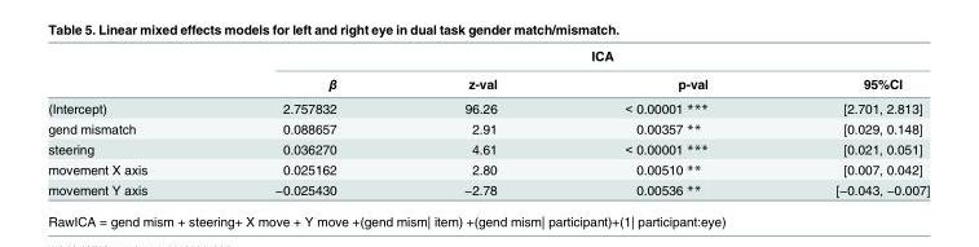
<table><thead><tr><td rowspan="2"></td><td colspan="4">ICA</td></tr><tr><td>β</td><td>z-val</td><td>p-val</td><td>95%CI</td></tr></thead><tbody><tr><td>(Intercept)</td><td>2.757832</td><td>96.26</td><td>&lt; 0.00001 ***</td><td>[2.701, 2.813]</td></tr><tr><td>gend mismatch</td><td>0.088657</td><td>2.91</td><td>0.00357 **</td><td>[0.029, 0.148]</td></tr><tr><td>steering</td><td>0.036270</td><td>4.61</td><td>&lt; 0.00001 ***</td><td>[0.021, 0.051]</td></tr><tr><td>movement X axis</td><td>0.025162</td><td>2.80</td><td>0.00510 **</td><td>[0.007, 0.042]</td></tr><tr><td>movement Y axis</td><td>−0.025430</td><td>−2.78</td><td>0.00536 **</td><td>[−0.043, −0.007]</td></tr></tbody></table>